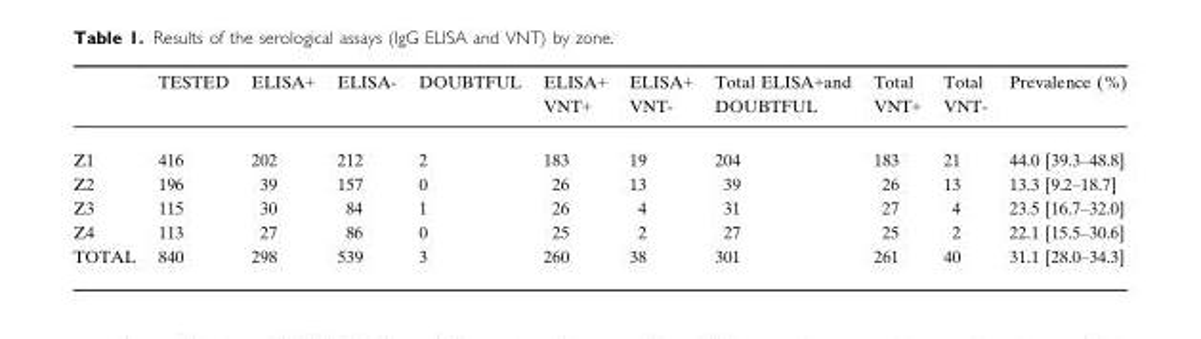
<table><thead><tr><td></td><td>TESTED</td><td>ELISA+</td><td>ELISA-</td><td>DOUBTFUL</td><td>ELISA+ VNT+</td><td>ELISA+ VNT-</td><td>Total ELISA+and DOUBTFUL</td><td>Total VNT+</td><td>Total VNT-</td><td>Prevalence (%)</td></tr></thead><tbody><tr><td>Z1</td><td>416</td><td>202</td><td>212</td><td>2</td><td>183</td><td>19</td><td>204</td><td>183</td><td>21</td><td>44.0 [39.3–48.8]</td></tr><tr><td>Z2</td><td>196</td><td>39</td><td>157</td><td>0</td><td>26</td><td>13</td><td>39</td><td>26</td><td>13</td><td>13.3 [9.2–18.7]</td></tr><tr><td>Z3</td><td>115</td><td>30</td><td>84</td><td>1</td><td>26</td><td>4</td><td>31</td><td>27</td><td>4</td><td>23.5 [16.7–32.0]</td></tr><tr><td>Z4</td><td>113</td><td>27</td><td>86</td><td>0</td><td>25</td><td>2</td><td>27</td><td>25</td><td>2</td><td>22.1 [15.5–30.6]</td></tr><tr><td>TOTAL</td><td>840</td><td>298</td><td>539</td><td>3</td><td>260</td><td>38</td><td>301</td><td>261</td><td>40</td><td>31.1 [28.0–34.3]</td></tr></tbody></table>